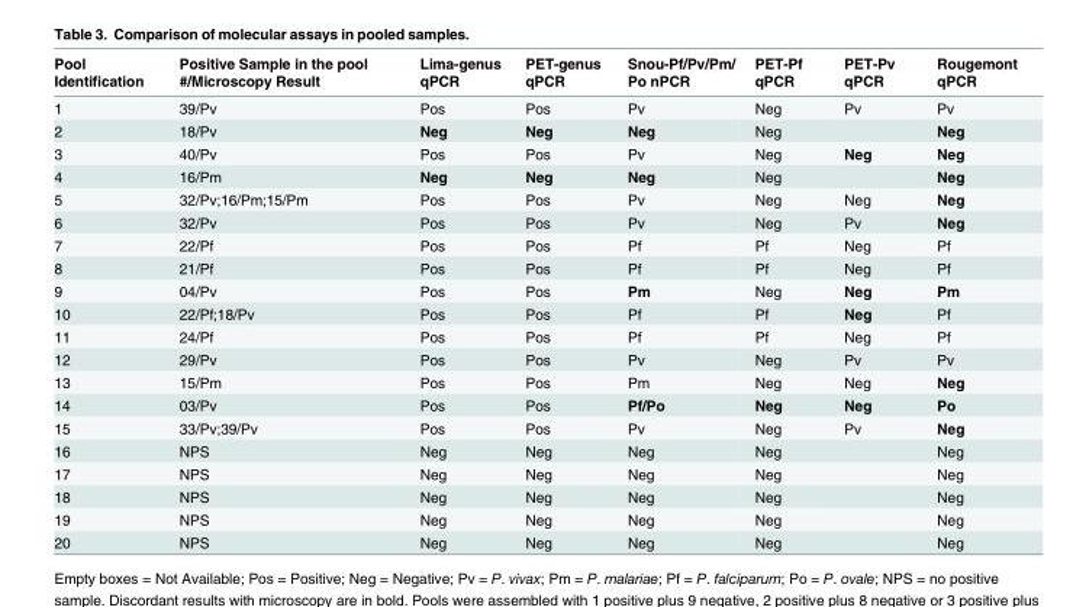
<table><thead><tr><td>Pool Identification</td><td>Positive Sample in the pool #/Microscopy Result</td><td>Lima-genus qPCR</td><td>PET-genus qPCR</td><td>Snou-Pf/Pv/Pm/ Po nPCR</td><td>PET-Pf qPCR</td><td>PET-Pv qPCR</td><td>Rougemont qPCR</td></tr></thead><tbody><tr><td>1</td><td>39/Pv</td><td>Pos</td><td>Pos</td><td>Pv</td><td>Neg</td><td>Pv</td><td>Pv</td></tr><tr><td>2</td><td>18/Pv</td><td>Neg</td><td>Neg</td><td>Neg</td><td>Neg</td><td></td><td>Neg</td></tr><tr><td>3</td><td>40/Pv</td><td>Pos</td><td>Pos</td><td>Pv</td><td>Neg</td><td>Neg</td><td>Neg</td></tr><tr><td>4</td><td>16/Pm</td><td>Neg</td><td>Neg</td><td>Neg</td><td>Neg</td><td></td><td>Neg</td></tr><tr><td>5</td><td>32/Pv;16/Pm;15/Pm</td><td>Pos</td><td>Pos</td><td>Pv</td><td>Neg</td><td>Neg</td><td>Neg</td></tr><tr><td>6</td><td>32/Pv</td><td>Pos</td><td>Pos</td><td>Pv</td><td>Neg</td><td>Pv</td><td>Neg</td></tr><tr><td>7</td><td>22/Pf</td><td>Pos</td><td>Pos</td><td>Pf</td><td>Pf</td><td>Neg</td><td>Pf</td></tr><tr><td>8</td><td>21/Pf</td><td>Pos</td><td>Pos</td><td>Pf</td><td>Pf</td><td>Neg</td><td>Pf</td></tr><tr><td>9</td><td>04/Pv</td><td>Pos</td><td>Pos</td><td>Pm</td><td>Neg</td><td>Neg</td><td>Pm</td></tr><tr><td>10</td><td>22/Pf;18/Pv</td><td>Pos</td><td>Pos</td><td>Pf</td><td>Pf</td><td>Neg</td><td>Pf</td></tr><tr><td>11</td><td>24/Pf</td><td>Pos</td><td>Pos</td><td>Pf</td><td>Pf</td><td>Neg</td><td>Pf</td></tr><tr><td>12</td><td>29/Pv</td><td>Pos</td><td>Pos</td><td>Pv</td><td>Neg</td><td>Pv</td><td>Pv</td></tr><tr><td>13</td><td>15/Pm</td><td>Pos</td><td>Pos</td><td>Pm</td><td>Neg</td><td>Neg</td><td>Neg</td></tr><tr><td>14</td><td>03/Pv</td><td>Pos</td><td>Pos</td><td>Pf/Po</td><td>Neg</td><td>Neg</td><td>Po</td></tr><tr><td>15</td><td>33/Pv;39/Pv</td><td>Pos</td><td>Pos</td><td>Pv</td><td>Neg</td><td>Pv</td><td>Neg</td></tr><tr><td>16</td><td>NPS</td><td>Neg</td><td>Neg</td><td>Neg</td><td>Neg</td><td></td><td>Neg</td></tr><tr><td>17</td><td>NPS</td><td>Neg</td><td>Neg</td><td>Neg</td><td>Neg</td><td></td><td>Neg</td></tr><tr><td>18</td><td>NPS</td><td>Neg</td><td>Neg</td><td>Neg</td><td>Neg</td><td></td><td>Neg</td></tr><tr><td>19</td><td>NPS</td><td>Neg</td><td>Neg</td><td>Neg</td><td>Neg</td><td></td><td>Neg</td></tr><tr><td>20</td><td>NPS</td><td>Neg</td><td>Neg</td><td>Neg</td><td>Neg</td><td></td><td>Neg</td></tr></tbody></table>